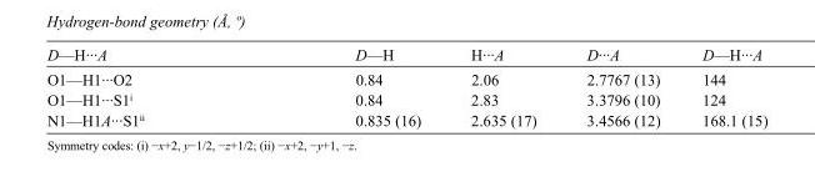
<table><tbody><tr><td>D—H···A</td><td>D—H</td><td>H···A</td><td>D···A</td><td>D—H···A</td></tr><tr><td>O1—H1···O2</td><td>0.84</td><td>2.06</td><td>2.7767 (13)</td><td>144</td></tr><tr><td>O1—H1···S1<sup>i</sup></td><td>0.84</td><td>2.83</td><td>3.3796 (10)</td><td>124</td></tr><tr><td>N1—H1A···S1<sup>ii</sup></td><td>0.835 (16)</td><td>2.635 (17)</td><td>3.4566 (12)</td><td>168.1 (15)</td></tr></tbody></table>